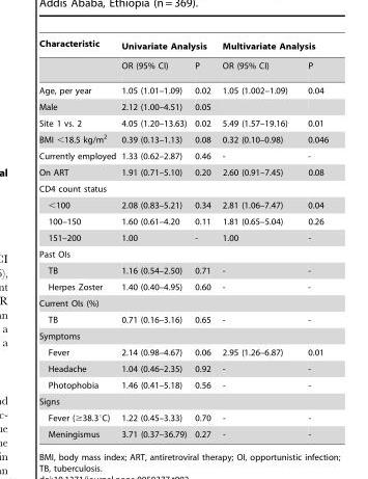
<table><thead><tr><td rowspan="2">Characteristic</td><td colspan="2">Univariate Analysis</td><td colspan="2">Multivariate Analysis</td></tr><tr><td>OR (95% CI)</td><td>P</td><td>OR (95% CI)</td><td>P</td></tr></thead><tbody><tr><td>Age, per year</td><td>1.05 (1.01–1.09)</td><td>0.02</td><td>1.05 (1.002–1.09)</td><td>0.04</td></tr><tr><td>Male</td><td>2.12 (1.00–4.51)</td><td>0.05</td><td></td><td></td></tr><tr><td>Site 1 vs. 2</td><td>4.05 (1.20–13.63)</td><td>0.02</td><td>5.49 (1.57–19.16)</td><td>0.01</td></tr><tr><td>BMI &lt;18.5 kg/m<sup>2</sup></td><td>0.39 (0.13–1.13)</td><td>0.08</td><td>0.32 (0.10–0.98)</td><td>0.046</td></tr><tr><td>Currently employed</td><td>1.33 (0.62–2.87)</td><td>0.46</td><td>-</td><td>-</td></tr><tr><td>On ART</td><td>1.91 (0.71–5.10)</td><td>0.20</td><td>2.60 (0.91–7.45)</td><td>0.08</td></tr><tr><td colspan="5">CD4 count status</td></tr><tr><td>&lt;100</td><td>2.08 (0.83–5.21)</td><td>0.34</td><td>2.81 (1.06–7.47)</td><td>0.04</td></tr><tr><td>100–150</td><td>1.60 (0.61–4.20</td><td>0.11</td><td>1.81 (0.65–5.04)</td><td>0.26</td></tr><tr><td>151–200</td><td>1.00</td><td>-</td><td>1.00</td><td>-</td></tr><tr><td colspan="5">Past OIs</td></tr><tr><td>TB</td><td>1.16 (0.54–2.50)</td><td>0.71</td><td>-</td><td>-</td></tr><tr><td>Herpes Zoster</td><td>1.40 (0.40–4.95)</td><td>0.60</td><td>-</td><td>-</td></tr><tr><td colspan="5">Current OIs (%)</td></tr><tr><td>TB</td><td>0.71 (0.16–3.16)</td><td>0.65</td><td>-</td><td>-</td></tr><tr><td colspan="5">Symptoms</td></tr><tr><td>Fever</td><td>2.14 (0.98–4.67)</td><td>0.06</td><td>2.95 (1.26–6.87)</td><td>0.01</td></tr><tr><td>Headache</td><td>1.04 (0.46–2.35)</td><td>0.92</td><td>-</td><td>-</td></tr><tr><td>Photophobia</td><td>1.46 (0.41–5.18)</td><td>0.56</td><td>-</td><td>-</td></tr><tr><td colspan="5">Signs</td></tr><tr><td>Fever (≥38.3°C)</td><td>1.22 (0.45–3.33)</td><td>0.70</td><td>-</td><td>-</td></tr><tr><td>Meningismus</td><td>3.71 (0.37–36.79)</td><td>0.27</td><td>-</td><td>-</td></tr></tbody></table>